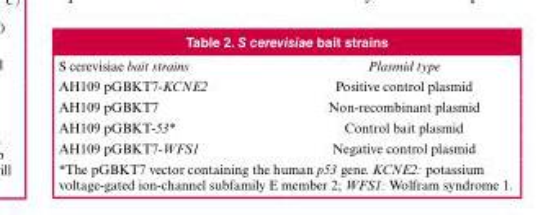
<table><thead><tr><td>S cerevisiae bait strains</td><td>Plasmid type</td></tr></thead><tbody><tr><td>AH109 pGBKT7-KCNE2</td><td>Positive control plasmid</td></tr><tr><td>AH109 pGBKT7</td><td>Non-recombinant plasmid</td></tr><tr><td>AH109 pGBKT-53*</td><td>Control bait plasmid</td></tr><tr><td>AH109 pGBKT7-WFS1</td><td>Negative control plasmid</td></tr></tbody></table>